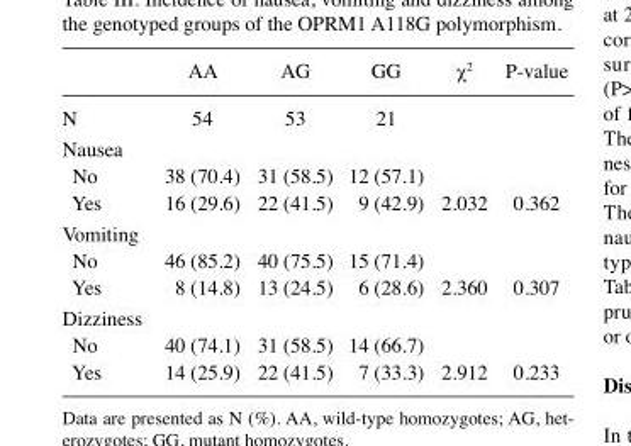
<table><thead><tr><td></td><td>AA</td><td>AG</td><td>GG</td><td>χ<sup>2</sup></td><td>P-value</td></tr></thead><tbody><tr><td>N</td><td>54</td><td>53</td><td>21</td><td></td><td></td></tr><tr><td colspan="6">Nausea</td></tr><tr><td>No</td><td>38 (70.4)</td><td>31 (58.5)</td><td>12 (57.1)</td><td></td><td></td></tr><tr><td>Yes</td><td>16 (29.6)</td><td>22 (41.5)</td><td>9 (42.9)</td><td>2.032</td><td>0.362</td></tr><tr><td colspan="6">Vomiting</td></tr><tr><td>No</td><td>46 (85.2)</td><td>40 (75.5)</td><td>15 (71.4)</td><td></td><td></td></tr><tr><td>Yes</td><td>8 (14.8)</td><td>13 (24.5)</td><td>6 (28.6)</td><td>2.360</td><td>0.307</td></tr><tr><td colspan="6">Dizziness</td></tr><tr><td>No</td><td>40 (74.1)</td><td>31 (58.5)</td><td>14 (66.7)</td><td></td><td></td></tr><tr><td>Yes</td><td>14 (25.9)</td><td>22 (41.5)</td><td>7 (33.3)</td><td>2.912</td><td>0.233</td></tr></tbody></table>